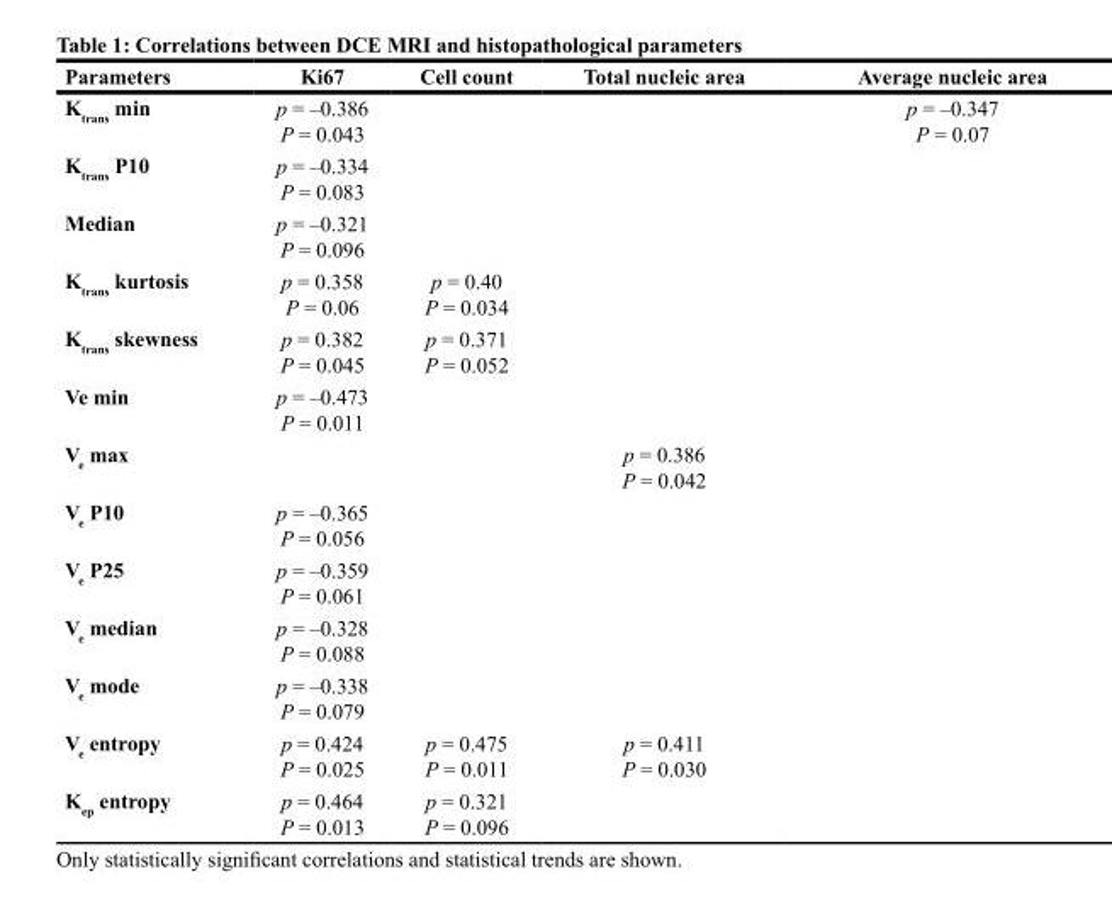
<table><thead><tr><td>Parameters</td><td>Ki67</td><td>Cell count</td><td>Total nucleic area</td><td>Average nucleic area</td></tr></thead><tbody><tr><td>K<sub>trans</sub> min</td><td>p = –0.386 P = 0.043</td><td></td><td></td><td>p = –0.347 P = 0.07</td></tr><tr><td>K<sub>trans</sub> P10</td><td>p = –0.334 P = 0.083</td><td></td><td></td><td></td></tr><tr><td>Median</td><td>p = –0.321 P = 0.096</td><td></td><td></td><td></td></tr><tr><td>K<sub>trans</sub> kurtosis</td><td>p = 0.358 P = 0.06</td><td>p = 0.40 P = 0.034</td><td></td><td></td></tr><tr><td>K<sub>trans</sub> skewness</td><td>p = 0.382 P = 0.045</td><td>p = 0.371 P = 0.052</td><td></td><td></td></tr><tr><td>Ve min</td><td>p = –0.473 P = 0.011</td><td></td><td></td><td></td></tr><tr><td>V<sub>e</sub> max</td><td></td><td></td><td>p = 0.386 P = 0.042</td><td></td></tr><tr><td>V<sub>e</sub> P10</td><td>p = –0.365 P = 0.056</td><td></td><td></td><td></td></tr><tr><td>V<sub>e</sub> P25</td><td>p = –0.359 P = 0.061</td><td></td><td></td><td></td></tr><tr><td>V<sub>e</sub> median</td><td>p = –0.328 P = 0.088</td><td></td><td></td><td></td></tr><tr><td>V<sub>e</sub> mode</td><td>p = –0.338 P = 0.079</td><td></td><td></td><td></td></tr><tr><td>V<sub>e</sub> entropy</td><td>p = 0.424 P = 0.025</td><td>p = 0.475 P = 0.011</td><td>p = 0.411 P = 0.030</td><td></td></tr><tr><td>K<sub>ep</sub> entropy</td><td>p = 0.464 P = 0.013</td><td>p = 0.321 P = 0.096</td><td></td><td></td></tr></tbody></table>